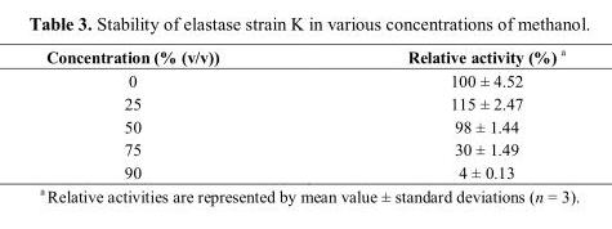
<table><thead><tr><td>Concentration (% (v/v))</td><td>Relative activity (%) a</td></tr></thead><tbody><tr><td>0</td><td>100 ± 4.52</td></tr><tr><td>25</td><td>115 ± 2.47</td></tr><tr><td>50</td><td>98 ± 1.44</td></tr><tr><td>75</td><td>30 ± 1.49</td></tr><tr><td>90</td><td>4 ± 0.13</td></tr></tbody></table>